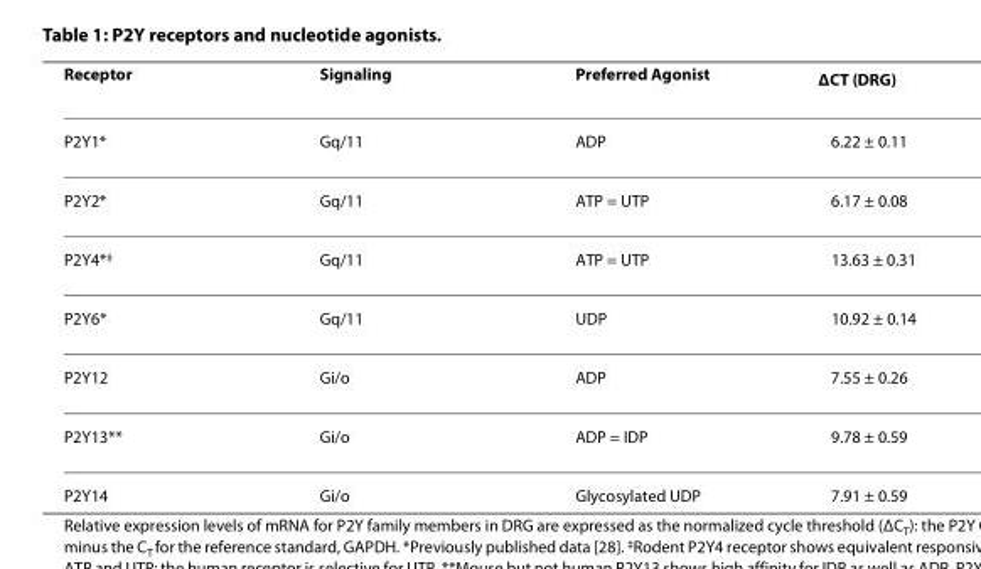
<table><thead><tr><td>Receptor</td><td>Signaling</td><td>Preferred Agonist</td><td>ΔC<sub>T</sub> (DRG)</td></tr></thead><tbody><tr><td>P2Y1*</td><td>Gq/11</td><td>ADP</td><td>6.22 ± 0.11</td></tr><tr><td>P2Y2*</td><td>Gq/11</td><td>ATP = UTP</td><td>6.17 ± 0.08</td></tr><tr><td>P2Y4*<sup>‡</sup></td><td>Gq/11</td><td>ATP = UTP</td><td>13.63 ± 0.31</td></tr><tr><td>P2Y6*</td><td>Gq/11</td><td>UDP</td><td>10.92 ± 0.14</td></tr><tr><td>P2Y12</td><td>Gi/o</td><td>ADP</td><td>7.55 ± 0.26</td></tr><tr><td>P2Y13**</td><td>Gi/o</td><td>ADP = IDP</td><td>9.78 ± 0.59</td></tr><tr><td>P2Y14</td><td>Gi/o</td><td>Glycosylated UDP</td><td>7.91 ± 0.59</td></tr></tbody></table>